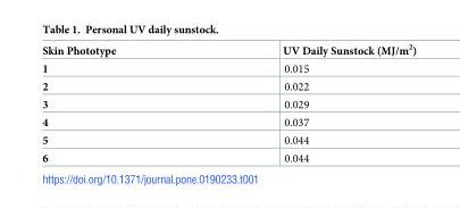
<table><thead><tr><td>Skin Phototype</td><td>UV Daily Sunstock (MJ/m<sup>2</sup>)</td></tr></thead><tbody><tr><td>1</td><td>0.015</td></tr><tr><td>2</td><td>0.022</td></tr><tr><td>3</td><td>0.029</td></tr><tr><td>4</td><td>0.037</td></tr><tr><td>5</td><td>0.044</td></tr><tr><td>6</td><td>0.044</td></tr></tbody></table>